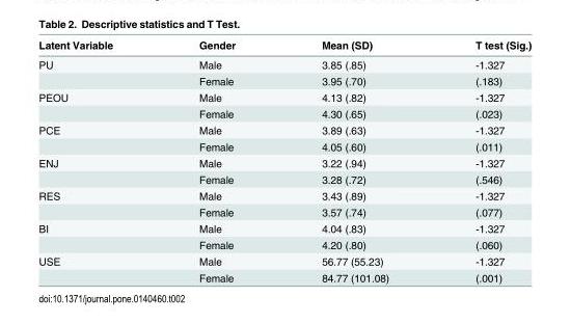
<table><thead><tr><td>Latent Variable</td><td>Gender</td><td>Mean (SD)</td><td>T test (Sig.)</td></tr></thead><tbody><tr><td rowspan="2">PU</td><td>Male</td><td>3.85 (.85)</td><td>-1.327</td></tr><tr><td>Female</td><td>3.95 (.70)</td><td>(.183)</td></tr><tr><td rowspan="2">PEOU</td><td>Male</td><td>4.13 (.82)</td><td>-1.327</td></tr><tr><td>Female</td><td>4.30 (.65)</td><td>(.023)</td></tr><tr><td rowspan="2">PCE</td><td>Male</td><td>3.89 (.63)</td><td>-1.327</td></tr><tr><td>Female</td><td>4.05 (.60)</td><td>(.011)</td></tr><tr><td rowspan="2">ENJ</td><td>Male</td><td>3.22 (.94)</td><td>-1.327</td></tr><tr><td>Female</td><td>3.28 (.72)</td><td>(.546)</td></tr><tr><td rowspan="2">RES</td><td>Male</td><td>3.43 (.89)</td><td>-1.327</td></tr><tr><td>Female</td><td>3.57 (.74)</td><td>(.077)</td></tr><tr><td rowspan="2">BI</td><td>Male</td><td>4.04 (.83)</td><td>-1.327</td></tr><tr><td>Female</td><td>4.20 (.80)</td><td>(.060)</td></tr><tr><td rowspan="2">USE</td><td>Male</td><td>56.77 (55.23)</td><td>-1.327</td></tr><tr><td>Female</td><td>84.77 (101.08)</td><td>(.001)</td></tr></tbody></table>